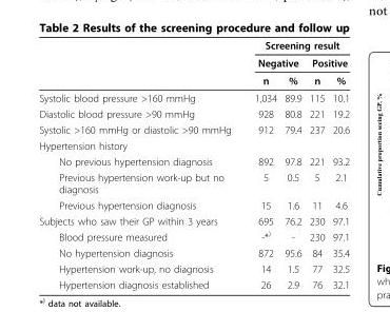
<table><thead><tr><td rowspan="3"></td><td colspan="4">Screening result</td></tr><tr><td colspan="2">Negative</td><td colspan="2">Positive</td></tr><tr><td>n</td><td>%</td><td>n</td><td>%</td></tr></thead><tbody><tr><td>Systolic blood pressure &gt;160 mmHg</td><td>1,034</td><td>89.9</td><td>115</td><td>10.1</td></tr><tr><td>Diastolic blood pressure &gt;90 mmHg</td><td>928</td><td>80.8</td><td>221</td><td>19.2</td></tr><tr><td>Systolic &gt;160 mmHg or diastolic &gt;90 mmHg</td><td>912</td><td>79.4</td><td>237</td><td>20.6</td></tr><tr><td colspan="5">Hypertension history</td></tr><tr><td>No previous hypertension diagnosis</td><td>892</td><td>97.8</td><td>221</td><td>93.2</td></tr><tr><td>Previous hypertension work-up but no diagnosis</td><td>5</td><td>0.5</td><td>5</td><td>2.1</td></tr><tr><td>Previous hypertension diagnosis</td><td>15</td><td>1.6</td><td>11</td><td>4.6</td></tr><tr><td>Subjects who saw their GP within 3 years</td><td>695</td><td>76.2</td><td>230</td><td>97.1</td></tr><tr><td>Blood pressure measured</td><td>-*<sup>)</sup></td><td>-</td><td>230</td><td>97.1</td></tr><tr><td>No hypertension diagnosis</td><td>872</td><td>95.6</td><td>84</td><td>35.4</td></tr><tr><td>Hypertension work-up, no diagnosis</td><td>14</td><td>1.5</td><td>77</td><td>32.5</td></tr><tr><td>Hypertension diagnosis established</td><td>26</td><td>2.9</td><td>76</td><td>32.1</td></tr></tbody></table>